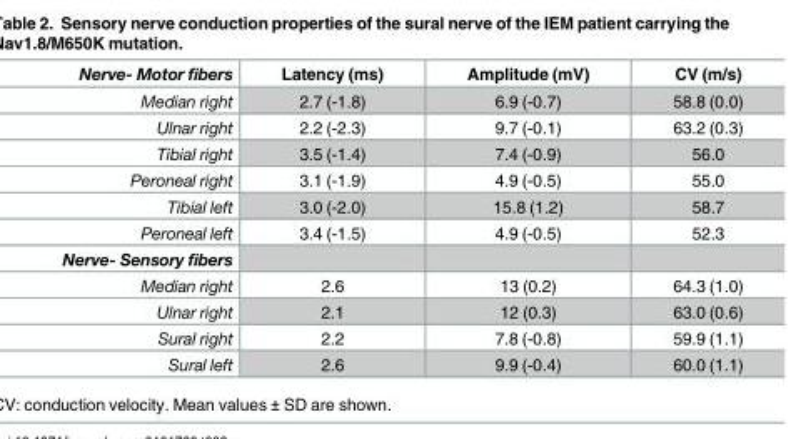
<table><thead><tr><td>Nerve- Motor fibers</td><td>Latency (ms)</td><td>Amplitude (mV)</td><td>CV (m/s)</td></tr></thead><tbody><tr><td>Median right</td><td>2.7 (-1.8)</td><td>6.9 (-0.7)</td><td>58.8 (0.0)</td></tr><tr><td>Ulnar right</td><td>2.2 (-2.3)</td><td>9.7 (-0.1)</td><td>63.2 (0.3)</td></tr><tr><td>Tibial right</td><td>3.5 (-1.4)</td><td>7.4 (-0.9)</td><td>56.0</td></tr><tr><td>Peroneal right</td><td>3.1 (-1.9)</td><td>4.9 (-0.5)</td><td>55.0</td></tr><tr><td>Tibial left</td><td>3.0 (-2.0)</td><td>15.8 (1.2)</td><td>58.7</td></tr><tr><td>Peroneal left</td><td>3.4 (-1.5)</td><td>4.9 (-0.5)</td><td>52.3</td></tr><tr><td colspan="4">Nerve- Sensory fibers</td></tr><tr><td>Median right</td><td>2.6</td><td>13 (0.2)</td><td>64.3 (1.0)</td></tr><tr><td>Ulnar right</td><td>2.1</td><td>12 (0.3)</td><td>63.0 (0.6)</td></tr><tr><td>Sural right</td><td>2.2</td><td>7.8 (-0.8)</td><td>59.9 (1.1)</td></tr><tr><td>Sural left</td><td>2.6</td><td>9.9 (-0.4)</td><td>60.0 (1.1)</td></tr></tbody></table>